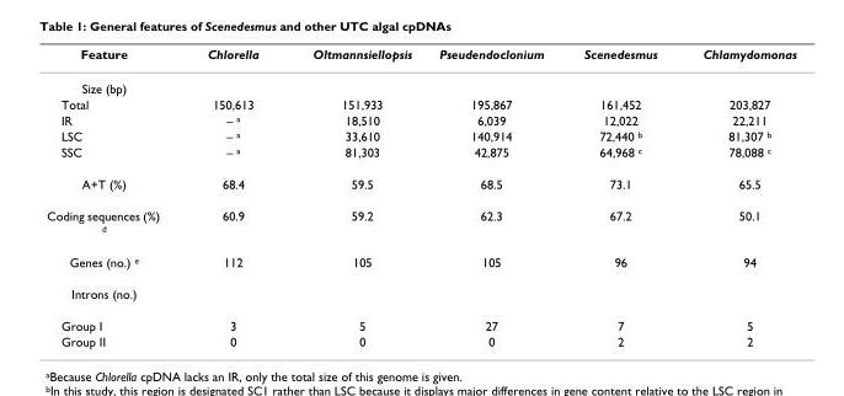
<table><thead><tr><td>Feature</td><td>Chlorella</td><td>Oltmannsiellopsis</td><td>Pseudendoclonium</td><td>Scenedesmus</td><td>Chlamydomonas</td></tr></thead><tbody><tr><td colspan="6">Size (bp)</td></tr><tr><td>Total</td><td>150,613</td><td>151,933</td><td>195,867</td><td>161,452</td><td>203,827</td></tr><tr><td>IR</td><td>– <sup>a</sup></td><td>18,510</td><td>6,039</td><td>12,022</td><td>22,211</td></tr><tr><td>LSC</td><td>– <sup>a</sup></td><td>33,610</td><td>140,914</td><td>72,440 <sup>b</sup></td><td>81,307 <sup>b</sup></td></tr><tr><td>SSC</td><td>– <sup>a</sup></td><td>81,303</td><td>42,875</td><td>64,968 <sup>c</sup></td><td>78,088 <sup>c</sup></td></tr><tr><td>A+T (%)</td><td>68.4</td><td>59.5</td><td>68.5</td><td>73.1</td><td>65.5</td></tr><tr><td>Coding sequences (%) <sup>d</sup></td><td>60.9</td><td>59.2</td><td>62.3</td><td>67.2</td><td>50.1</td></tr><tr><td>Genes (no.) <sup>e</sup></td><td>112</td><td>105</td><td>105</td><td>96</td><td>94</td></tr><tr><td colspan="6">Introns (no.)</td></tr><tr><td>Group I</td><td>3</td><td>5</td><td>27</td><td>7</td><td>5</td></tr><tr><td>Group II</td><td>0</td><td>0</td><td>0</td><td>2</td><td>2</td></tr></tbody></table>